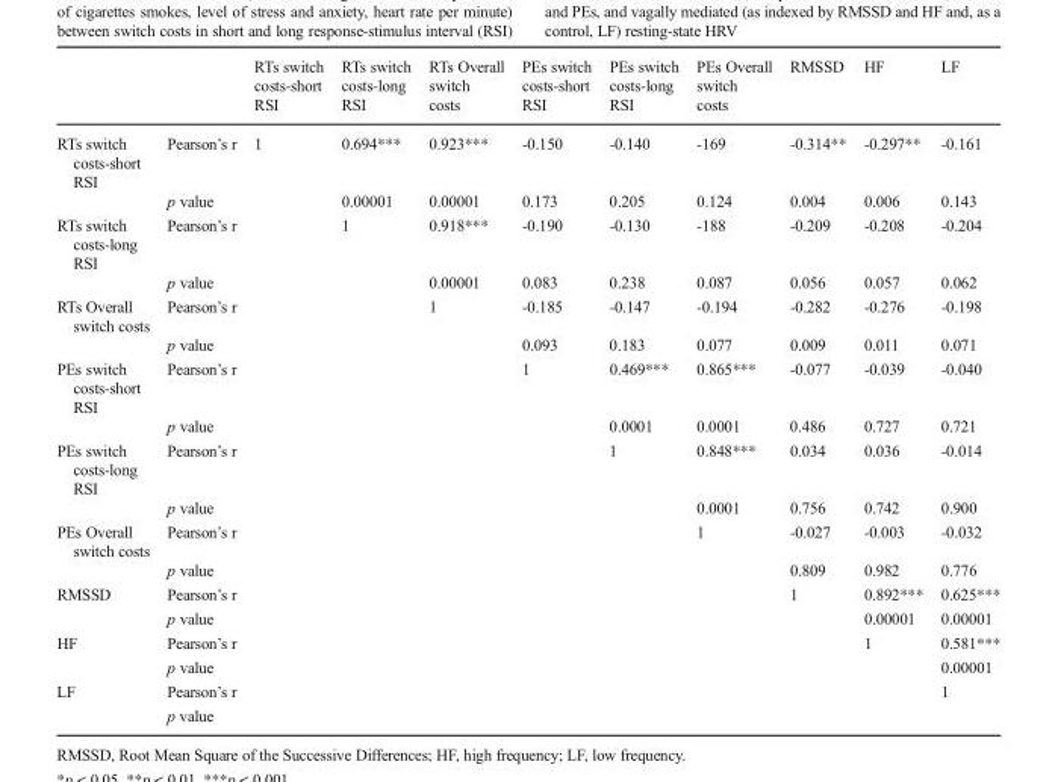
<table><thead><tr><td></td><td></td><td>RTs switch costs-short RSI</td><td>RTs switch costs-long RSI</td><td>RTs Overall switch costs</td><td>PEs switch costs-short RSI</td><td>PEs switch costs-long RSI</td><td>PEs Overall switch costs</td><td>RMSSD</td><td>HF</td><td>LF</td></tr></thead><tbody><tr><td rowspan="2">RTs switch costs-short RSI</td><td>Pearson’s r</td><td>1</td><td>0.694***</td><td>0.923***</td><td>-0.150</td><td>-0.140</td><td>-169</td><td>-0.314**</td><td>-0.297**</td><td>-0.161</td></tr><tr><td>p value</td><td></td><td>0.00001</td><td>0.00001</td><td>0.173</td><td>0.205</td><td>0.124</td><td>0.004</td><td>0.006</td><td>0.143</td></tr><tr><td rowspan="2">RTs switch costs-long RSI</td><td>Pearson’s r</td><td></td><td>1</td><td>0.918***</td><td>-0.190</td><td>-0.130</td><td>-188</td><td>-0.209</td><td>-0.208</td><td>-0.204</td></tr><tr><td>p value</td><td></td><td></td><td>0.00001</td><td>0.083</td><td>0.238</td><td>0.087</td><td>0.056</td><td>0.057</td><td>0.062</td></tr><tr><td rowspan="2">RTs Overall switch costs</td><td>Pearson’s r</td><td></td><td></td><td>1</td><td>-0.185</td><td>-0.147</td><td>-0.194</td><td>-0.282</td><td>-0.276</td><td>-0.198</td></tr><tr><td>p value</td><td></td><td></td><td></td><td>0.093</td><td>0.183</td><td>0.077</td><td>0.009</td><td>0.011</td><td>0.071</td></tr><tr><td rowspan="2">PEs switch costs-short RSI</td><td>Pearson’s r</td><td></td><td></td><td></td><td>1</td><td>0.469***</td><td>0.865***</td><td>-0.077</td><td>-0.039</td><td>-0.040</td></tr><tr><td>p value</td><td></td><td></td><td></td><td></td><td>0.0001</td><td>0.0001</td><td>0.486</td><td>0.727</td><td>0.721</td></tr><tr><td rowspan="2">PEs switch costs-long RSI</td><td>Pearson’s r</td><td></td><td></td><td></td><td></td><td>1</td><td>0.848***</td><td>0.034</td><td>0.036</td><td>-0.014</td></tr><tr><td>p value</td><td></td><td></td><td></td><td></td><td></td><td>0.0001</td><td>0.756</td><td>0.742</td><td>0.900</td></tr><tr><td rowspan="2">PEs Overall switch costs</td><td>Pearson’s r</td><td></td><td></td><td></td><td></td><td></td><td>1</td><td>-0.027</td><td>-0.003</td><td>-0.032</td></tr><tr><td>p value</td><td></td><td></td><td></td><td></td><td></td><td></td><td>0.809</td><td>0.982</td><td>0.776</td></tr><tr><td rowspan="2">RMSSD</td><td>Pearson’s r</td><td></td><td></td><td></td><td></td><td></td><td></td><td>1</td><td>0.892***</td><td>0.625***</td></tr><tr><td>p value</td><td></td><td></td><td></td><td></td><td></td><td></td><td></td><td>0.00001</td><td>0.00001</td></tr><tr><td rowspan="2">HF</td><td>Pearson’s r</td><td></td><td></td><td></td><td></td><td></td><td></td><td></td><td>1</td><td>0.581***</td></tr><tr><td>p value</td><td></td><td></td><td></td><td></td><td></td><td></td><td></td><td></td><td>0.00001</td></tr><tr><td rowspan="2">LF</td><td>Pearson’s r</td><td></td><td></td><td></td><td></td><td></td><td></td><td></td><td></td><td>1</td></tr><tr><td>p value</td><td></td><td></td><td></td><td></td><td></td><td></td><td></td><td></td><td></td></tr></tbody></table>